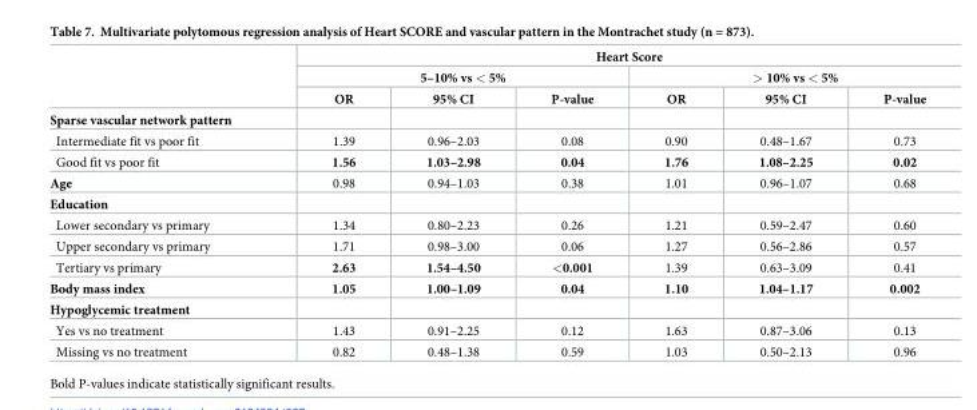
<table><thead><tr><td rowspan="3"></td><td colspan="6">Heart Score</td></tr><tr><td colspan="3">5–10% vs &lt; 5%</td><td colspan="3">&gt; 10% vs &lt; 5%</td></tr><tr><td>OR</td><td>95% CI</td><td>P-value</td><td>OR</td><td>95% CI</td><td>P-value</td></tr></thead><tbody><tr><td colspan="7">Sparse vascular network pattern</td></tr><tr><td>Intermediate fit vs poor fit</td><td>1.39</td><td>0.96–2.03</td><td>0.08</td><td>0.90</td><td>0.48–1.67</td><td>0.73</td></tr><tr><td>Good fit vs poor fit</td><td>1.56</td><td>1.03–2.98</td><td>0.04</td><td>1.76</td><td>1.08–2.25</td><td>0.02</td></tr><tr><td>Age</td><td>0.98</td><td>0.94–1.03</td><td>0.38</td><td>1.01</td><td>0.96–1.07</td><td>0.68</td></tr><tr><td colspan="7">Education</td></tr><tr><td>Lower secondary vs primary</td><td>1.34</td><td>0.80–2.23</td><td>0.26</td><td>1.21</td><td>0.59–2.47</td><td>0.60</td></tr><tr><td>Upper secondary vs primary</td><td>1.71</td><td>0.98–3.00</td><td>0.06</td><td>1.27</td><td>0.56–2.86</td><td>0.57</td></tr><tr><td>Tertiary vs primary</td><td>2.63</td><td>1.54–4.50</td><td>&lt;0.001</td><td>1.39</td><td>0.63–3.09</td><td>0.41</td></tr><tr><td>Body mass index</td><td>1.05</td><td>1.00–1.09</td><td>0.04</td><td>1.10</td><td>1.04–1.17</td><td>0.002</td></tr><tr><td colspan="7">Hypoglycemic treatment</td></tr><tr><td>Yes vs no treatment</td><td>1.43</td><td>0.91–2.25</td><td>0.12</td><td>1.63</td><td>0.87–3.06</td><td>0.13</td></tr><tr><td>Missing vs no treatment</td><td>0.82</td><td>0.48–1.38</td><td>0.59</td><td>1.03</td><td>0.50–2.13</td><td>0.96</td></tr></tbody></table>